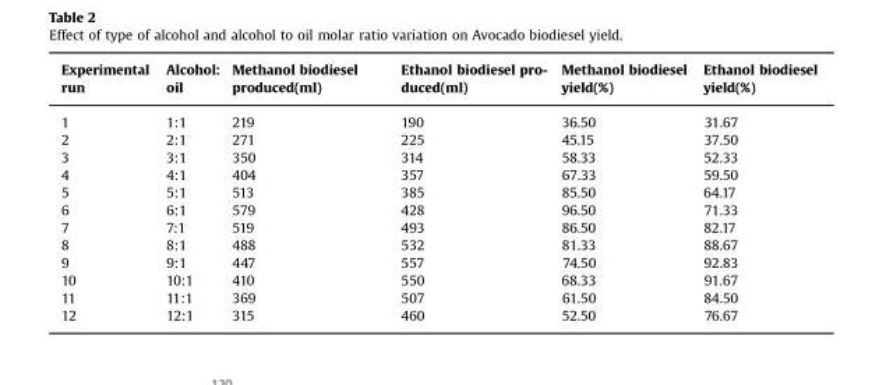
<table><thead><tr><td>Experimental run</td><td>Alcohol: oil</td><td>Methanol biodiesel produced(ml)</td><td>Ethanol biodiesel pro- duced(ml)</td><td>Methanol biodiesel yield(%)</td><td>Ethanol biodiesel yield(%)</td></tr></thead><tbody><tr><td>1</td><td>1:1</td><td>219</td><td>190</td><td>36.50</td><td>31.67</td></tr><tr><td>2</td><td>2:1</td><td>271</td><td>225</td><td>45.15</td><td>37.50</td></tr><tr><td>3</td><td>3:1</td><td>350</td><td>314</td><td>58.33</td><td>52.33</td></tr><tr><td>4</td><td>4:1</td><td>404</td><td>357</td><td>67.33</td><td>59.50</td></tr><tr><td>5</td><td>5:1</td><td>513</td><td>385</td><td>85.50</td><td>64.17</td></tr><tr><td>6</td><td>6:1</td><td>579</td><td>428</td><td>96.50</td><td>71.33</td></tr><tr><td>7</td><td>7:1</td><td>519</td><td>493</td><td>86.50</td><td>82.17</td></tr><tr><td>8</td><td>8:1</td><td>488</td><td>532</td><td>81.33</td><td>88.67</td></tr><tr><td>9</td><td>9:1</td><td>447</td><td>557</td><td>74.50</td><td>92.83</td></tr><tr><td>10</td><td>10:1</td><td>410</td><td>550</td><td>68.33</td><td>91.67</td></tr><tr><td>11</td><td>11:1</td><td>369</td><td>507</td><td>61.50</td><td>84.50</td></tr><tr><td>12</td><td>12:1</td><td>315</td><td>460</td><td>52.50</td><td>76.67</td></tr></tbody></table>